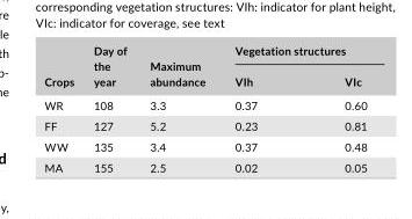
<table><thead><tr><td rowspan="2">Crops</td><td rowspan="2">Day of the year</td><td rowspan="2">Maximum abundance</td><td colspan="2">Vegetation structures</td></tr><tr><td>VIh</td><td>VIc</td></tr></thead><tbody><tr><td>WR</td><td>108</td><td>3.3</td><td>0.37</td><td>0.60</td></tr><tr><td>FF</td><td>127</td><td>5.2</td><td>0.23</td><td>0.81</td></tr><tr><td>WW</td><td>135</td><td>3.4</td><td>0.37</td><td>0.48</td></tr><tr><td>MA</td><td>155</td><td>2.5</td><td>0.02</td><td>0.05</td></tr></tbody></table>